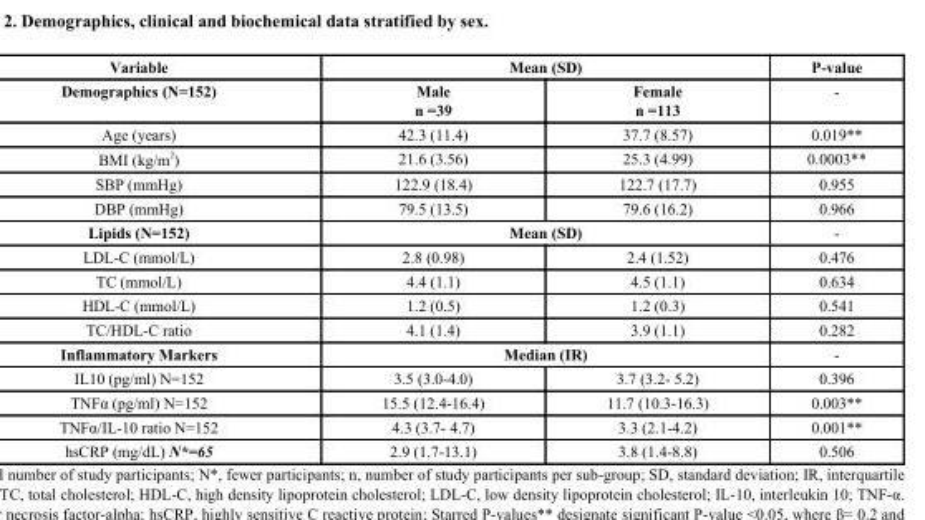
<table><thead><tr><td rowspan="2">Variable Demographics (N=152)</td><td colspan="2">Mean (SD)</td><td rowspan="2">P-value -</td></tr><tr><td>Male n =39</td><td>Female n =113</td></tr></thead><tbody><tr><td>Age (years)</td><td>42.3 (11.4)</td><td>37.7 (8.57)</td><td>0.019**</td></tr><tr><td>BMI (kg/m <sup>2</sup>)</td><td>21.6 (3.56)</td><td>25.3 (4.99)</td><td>0.0003**</td></tr><tr><td>SBP (mmHg)</td><td>122.9 (18.4)</td><td>122.7 (17.7)</td><td>0.955</td></tr><tr><td>DBP (mmHg)</td><td>79.5 (13.5)</td><td>79.6 (16.2)</td><td>0.966</td></tr><tr><td>Lipids (N=152)</td><td colspan="2">Mean (SD)</td><td>-</td></tr><tr><td>LDL-C (mmol/L)</td><td>2.8 (0.98)</td><td>2.4 (1.52)</td><td>0.476</td></tr><tr><td>TC (mmol/L)</td><td>4.4 (1.1)</td><td>4.5 (1.1)</td><td>0.634</td></tr><tr><td>HDL-C (mmol/L)</td><td>1.2 (0.5)</td><td>1.2 (0.3)</td><td>0.541</td></tr><tr><td>TC/HDL-C ratio</td><td>4.1 (1.4)</td><td>3.9 (1.1)</td><td>0.282</td></tr><tr><td>Inflammatory Markers</td><td colspan="2">Median (IR)</td><td>-</td></tr><tr><td>IL10 (pg/ml) N=152</td><td>3.5 (3.0-4.0)</td><td>3.7 (3.2- 5.2)</td><td>0.396</td></tr><tr><td>TNFα (pg/ml) N=152</td><td>15.5 (12.4-16.4)</td><td>11.7 (10.3-16.3)</td><td>0.003**</td></tr><tr><td>TNFα/IL-10 ratio N=152</td><td>4.3 (3.7- 4.7)</td><td>3.3 (2.1-4.2)</td><td>0.001**</td></tr><tr><td>hsCRP (mg/dL) N*=65</td><td>2.9 (1.7-13.1)</td><td>3.8 (1.4-8.8)</td><td>0.506</td></tr></tbody></table>